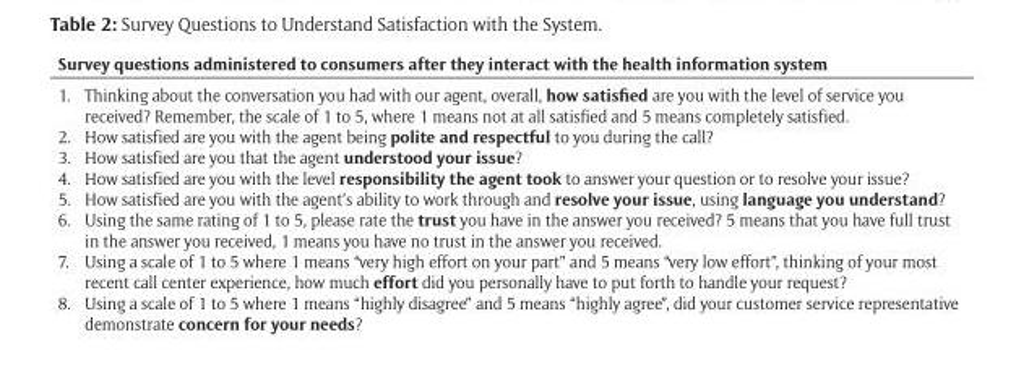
<table><thead><tr><td colspan="2">Survey questions administered to consumers after they interact with the health information system</td></tr><tr><td>1.</td><td>Thinking about the conversation you had with our agent, overall, how satisfied are you with the level of service you received? Remember, the scale of 1 to 5, where 1 means not at all satisfied and 5 means completely satisfied.</td></tr></thead><tbody><tr><td>2.</td><td>How satisfied are you with the agent being polite and respectful to you during the call?</td></tr><tr><td>3.</td><td>How satisfied are you that the agent understood your issue?</td></tr><tr><td>4.</td><td>How satisfied are you with the level responsibility the agent took to answer your question or to resolve your issue?</td></tr><tr><td>5.</td><td>How satisfied are you with the agent’s ability to work through and resolve your issue, using language you understand?</td></tr><tr><td>6.</td><td>Using the same rating of 1 to 5, please rate the trust you have in the answer you received? 5 means that you have full trust in the answer you received, 1 means you have no trust in the answer you received.</td></tr><tr><td>7.</td><td>Using a scale of 1 to 5 where 1 means “very high effort on your part” and 5 means “very low effort”, thinking of your most recent call center experience, how much effort did you personally have to put forth to handle your request?</td></tr><tr><td>8.</td><td>Using a scale of 1 to 5 where 1 means “highly disagree” and 5 means “highly agree”, did your customer service representative demonstrate concern for your needs?</td></tr></tbody></table>